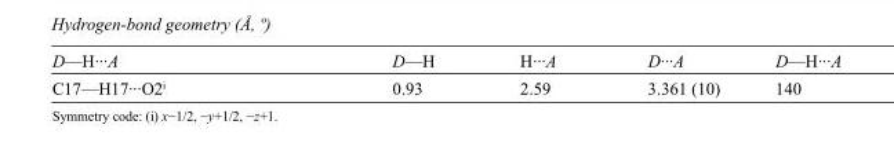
<table><tbody><tr><td>D—H···A</td><td>D—H</td><td>H···A</td><td>D···A</td><td>D—H···A</td></tr><tr><td>C17—H17···O2<sup>i</sup></td><td>0.93</td><td>2.59</td><td>3.361 (10)</td><td>140</td></tr></tbody></table>